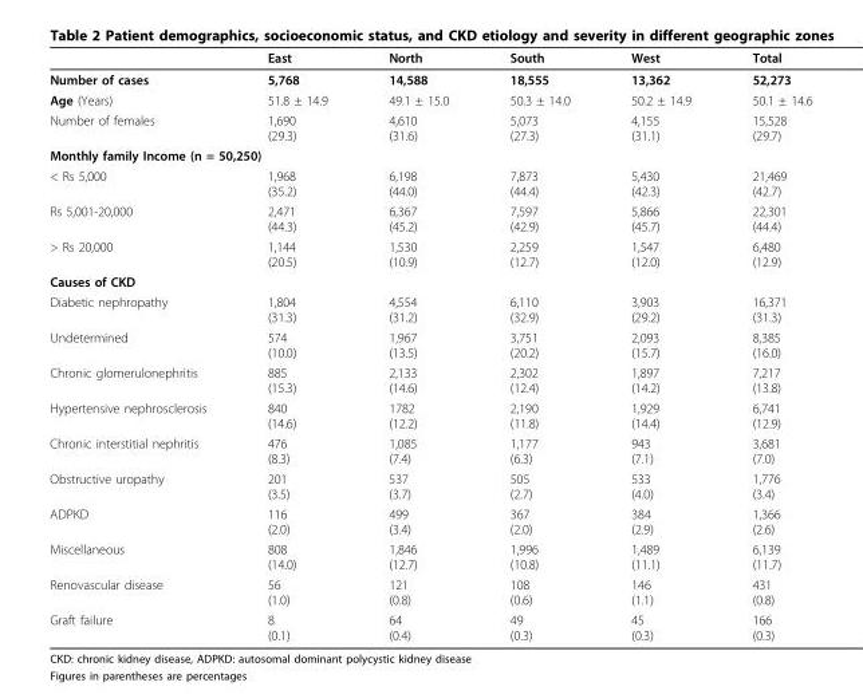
<table><thead><tr><td></td><td>East</td><td>North</td><td>South</td><td>West</td><td>Total</td></tr></thead><tbody><tr><td>Number of cases</td><td>5,768</td><td>14,588</td><td>18,555</td><td>13,362</td><td>52,273</td></tr><tr><td>Age (Years)</td><td>51.8 ± 14.9</td><td>49.1 ± 15.0</td><td>50.3 ± 14.0</td><td>50.2 ± 14.9</td><td>50.1 ± 14.6</td></tr><tr><td>Number of females</td><td>1,690 (29.3)</td><td>4,610 (31.6)</td><td>5,073 (27.3)</td><td>4,155 (31.1)</td><td>15,528 (29.7)</td></tr><tr><td colspan="6">Monthly family Income (n = 50,250)</td></tr><tr><td>&lt; Rs 5,000</td><td>1,968 (35.2)</td><td>6,198 (44.0)</td><td>7,873 (44.4)</td><td>5,430 (42.3)</td><td>21,469 (42.7)</td></tr><tr><td>Rs 5,001-20,000</td><td>2,471 (44.3)</td><td>6,367 (45.2)</td><td>7,597 (42.9)</td><td>5,866 (45.7)</td><td>22,301 (44.4)</td></tr><tr><td>&gt; Rs 20,000</td><td>1,144 (20.5)</td><td>1,530 (10.9)</td><td>2,259 (12.7)</td><td>1,547 (12.0)</td><td>6,480 (12.9)</td></tr><tr><td colspan="6">Causes of CKD</td></tr><tr><td>Diabetic nephropathy</td><td>1,804 (31.3)</td><td>4,554 (31.2)</td><td>6,110 (32.9)</td><td>3,903 (29.2)</td><td>16,371 (31.3)</td></tr><tr><td>Undetermined</td><td>574 (10.0)</td><td>1,967 (13.5)</td><td>3,751 (20.2)</td><td>2,093 (15.7)</td><td>8,385 (16.0)</td></tr><tr><td>Chronic glomerulonephritis</td><td>885 (15.3)</td><td>2,133 (14.6)</td><td>2,302 (12.4)</td><td>1,897 (14.2)</td><td>7,217 (13.8)</td></tr><tr><td>Hypertensive nephrosclerosis</td><td>840 (14.6)</td><td>1782 (12.2)</td><td>2,190 (11.8)</td><td>1,929 (14.4)</td><td>6,741 (12.9)</td></tr><tr><td>Chronic interstitial nephritis</td><td>476 (8.3)</td><td>1,085 (7.4)</td><td>1,177 (6.3)</td><td>943 (7.1)</td><td>3,681 (7.0)</td></tr><tr><td>Obstructive uropathy</td><td>201 (3.5)</td><td>537 (3.7)</td><td>505 (2.7)</td><td>533 (4.0)</td><td>1,776 (3.4)</td></tr><tr><td>ADPKD</td><td>116 (2.0)</td><td>499 (3.4)</td><td>367 (2.0)</td><td>384 (2.9)</td><td>1,366 (2.6)</td></tr><tr><td>Miscellaneous</td><td>808 (14.0)</td><td>1,846 (12.7)</td><td>1,996 (10.8)</td><td>1,489 (11.1)</td><td>6,139 (11.7)</td></tr><tr><td>Renovascular disease</td><td>56 (1.0)</td><td>121 (0.8)</td><td>108 (0.6)</td><td>146 (1.1)</td><td>431 (0.8)</td></tr><tr><td>Graft failure</td><td>8 (0.1)</td><td>64 (0.4)</td><td>49 (0.3)</td><td>45 (0.3)</td><td>166 (0.3)</td></tr></tbody></table>